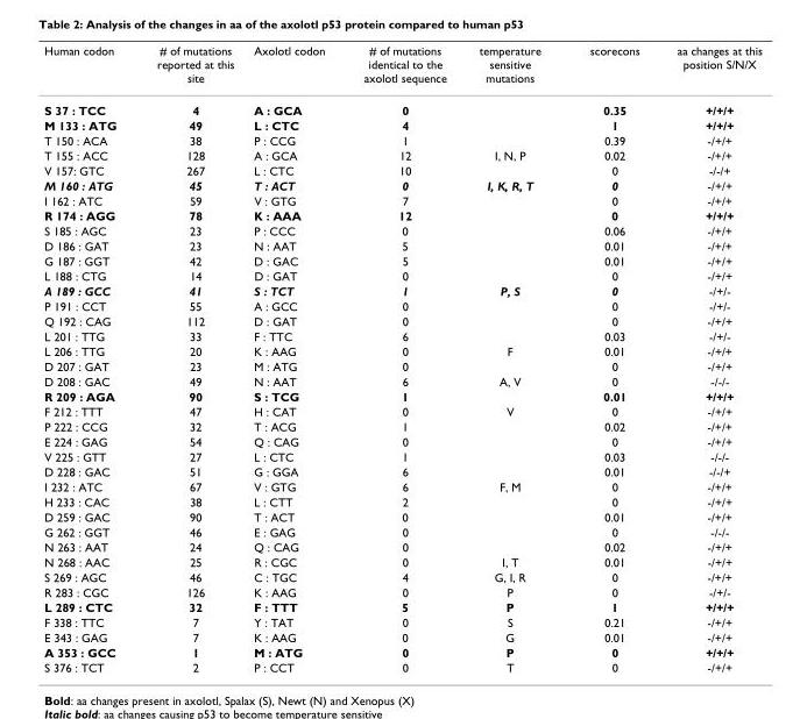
<table><thead><tr><td>Human codon</td><td># of mutations reported at this site</td><td>Axolotl codon</td><td># of mutations identical to the axolotl sequence</td><td>temperature sensitive mutations</td><td>scorecons</td><td>aa changes at this position S/N/X</td></tr></thead><tbody><tr><td>S 37 : TCC</td><td>4</td><td>A : GCA</td><td>0</td><td></td><td>0.35</td><td>+/+/+</td></tr><tr><td>M 133 : ATG</td><td>49</td><td>L : CTC</td><td>4</td><td></td><td>1</td><td>+/+/+</td></tr><tr><td>T 150 : ACA</td><td>38</td><td>P : CCG</td><td>1</td><td></td><td>0.39</td><td>-/+/+</td></tr><tr><td>T 155 : ACC</td><td>128</td><td>A : GCA</td><td>12</td><td>I, N, P</td><td>0.02</td><td>-/+/+</td></tr><tr><td>V 157: GTC</td><td>267</td><td>L : CTC</td><td>10</td><td></td><td>0</td><td>-/-/+</td></tr><tr><td>M 160 : ATG</td><td>45</td><td>T : ACT</td><td>0</td><td>I, K, R, T</td><td>0</td><td>-/+/+</td></tr><tr><td>I 162 : ATC</td><td>59</td><td>V : GTG</td><td>7</td><td></td><td>0</td><td>-/+/+</td></tr><tr><td>R 174 : AGG</td><td>78</td><td>K : AAA</td><td>12</td><td></td><td>0</td><td>+/+/+</td></tr><tr><td>S 185 : AGC</td><td>23</td><td>P : CCC</td><td>0</td><td></td><td>0.06</td><td>-/+/+</td></tr><tr><td>D 186 : GAT</td><td>23</td><td>N : AAT</td><td>5</td><td></td><td>0.01</td><td>-/+/+</td></tr><tr><td>G 187 : GGT</td><td>42</td><td>D : GAC</td><td>5</td><td></td><td>0.01</td><td>-/+/+</td></tr><tr><td>L 188 : CTG</td><td>14</td><td>D : GAT</td><td>0</td><td></td><td>0</td><td>-/+/+</td></tr><tr><td>A 189 : GCC</td><td>41</td><td>S : TCT</td><td>1</td><td>P, S</td><td>0</td><td>-/+/-</td></tr><tr><td>P 191 : CCT</td><td>55</td><td>A : GCC</td><td>0</td><td></td><td>0</td><td>-/+/-</td></tr><tr><td>Q 192 : CAG</td><td>112</td><td>D : GAT</td><td>0</td><td></td><td>0</td><td>-/+/+</td></tr><tr><td>L 201 : TTG</td><td>33</td><td>F : TTC</td><td>6</td><td></td><td>0.03</td><td>-/+/-</td></tr><tr><td>L 206 : TTG</td><td>20</td><td>K : AAG</td><td>0</td><td>F</td><td>0.01</td><td>-/+/+</td></tr><tr><td>D 207 : GAT</td><td>23</td><td>M : ATG</td><td>0</td><td></td><td>0</td><td>-/+/+</td></tr><tr><td>D 208 : GAC</td><td>49</td><td>N : AAT</td><td>6</td><td>A, V</td><td>0</td><td>-/-/-</td></tr><tr><td>R 209 : AGA</td><td>90</td><td>S : TCG</td><td>1</td><td></td><td>0.01</td><td>+/+/+</td></tr><tr><td>F 212 : TTT</td><td>47</td><td>H : CAT</td><td>0</td><td>V</td><td>0</td><td>-/+/+</td></tr><tr><td>P 222 : CCG</td><td>32</td><td>T : ACG</td><td>1</td><td></td><td>0.02</td><td>-/+/+</td></tr><tr><td>E 224 : GAG</td><td>54</td><td>Q : CAG</td><td>0</td><td></td><td>0</td><td>-/+/+</td></tr><tr><td>V 225 : GTT</td><td>27</td><td>L : CTC</td><td>1</td><td></td><td>0.03</td><td>-/-/-</td></tr><tr><td>D 228 : GAC</td><td>51</td><td>G : GGA</td><td>6</td><td></td><td>0.01</td><td>-/-/+</td></tr><tr><td>I 232 : ATC</td><td>67</td><td>V : GTG</td><td>6</td><td>F, M</td><td>0</td><td>-/+/+</td></tr><tr><td>H 233 : CAC</td><td>38</td><td>L : CTT</td><td>2</td><td></td><td>0</td><td>-/+/+</td></tr><tr><td>D 259 : GAC</td><td>90</td><td>T : ACT</td><td>0</td><td></td><td>0.01</td><td>-/+/+</td></tr><tr><td>G 262 : GGT</td><td>46</td><td>E : GAG</td><td>0</td><td></td><td>0</td><td>-/-/-</td></tr><tr><td>N 263 : AAT</td><td>24</td><td>Q : CAG</td><td>0</td><td></td><td>0.02</td><td>-/+/+</td></tr><tr><td>N 268 : AAC</td><td>25</td><td>R : CGC</td><td>0</td><td>I, T</td><td>0.01</td><td>-/+/+</td></tr><tr><td>S 269 : AGC</td><td>46</td><td>C : TGC</td><td>4</td><td>G, I, R</td><td>0</td><td>-/+/+</td></tr><tr><td>R 283 : CGC</td><td>126</td><td>K : AAG</td><td>0</td><td>P</td><td>0</td><td>-/+/-</td></tr><tr><td>L 289 : CTC</td><td>32</td><td>F : TTT</td><td>5</td><td>P</td><td>1</td><td>+/+/+</td></tr><tr><td>F 338 : TTC</td><td>7</td><td>Y : TAT</td><td>0</td><td>S</td><td>0.21</td><td>-/+/+</td></tr><tr><td>E 343 : GAG</td><td>7</td><td>K : AAG</td><td>0</td><td>G</td><td>0.01</td><td>-/+/+</td></tr><tr><td>A 353 : GCC</td><td>1</td><td>M : ATG</td><td>0</td><td>P</td><td>0</td><td>+/+/+</td></tr><tr><td>S 376 : TCT</td><td>2</td><td>P : CCT</td><td>0</td><td>T</td><td>0</td><td>-/+/+</td></tr></tbody></table>